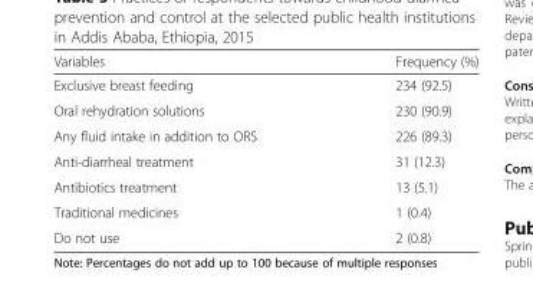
<table><thead><tr><td>Variables</td><td>Frequency (%)</td></tr></thead><tbody><tr><td>Exclusive breast feeding</td><td>234 (92.5)</td></tr><tr><td>Oral rehydration solutions</td><td>230 (90.9)</td></tr><tr><td>Any fluid intake in addition to ORS</td><td>226 (89.3)</td></tr><tr><td>Anti-diarrheal treatment</td><td>31 (12.3)</td></tr><tr><td>Antibiotics treatment</td><td>13 (5.1)</td></tr><tr><td>Traditional medicines</td><td>1 (0.4)</td></tr><tr><td>Do not use</td><td>2 (0.8)</td></tr></tbody></table>